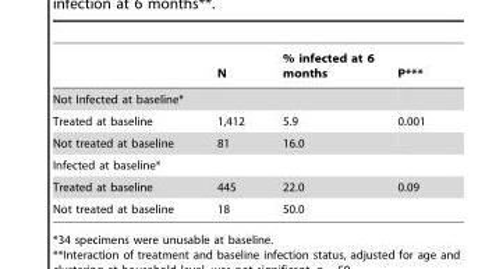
<table><thead><tr><td></td><td>N</td><td>% infected at 6 months</td><td>P***</td></tr></thead><tbody><tr><td colspan="4">Not Infected at baseline*</td></tr><tr><td>Treated at baseline</td><td>1,412</td><td>5.9</td><td>0.001</td></tr><tr><td>Not treated at baseline</td><td>81</td><td>16.0</td><td></td></tr><tr><td colspan="4">Infected at baseline*</td></tr><tr><td>Treated at baseline</td><td>445</td><td>22.0</td><td>0.09</td></tr><tr><td>Not treated at baseline</td><td>18</td><td>50.0</td><td></td></tr></tbody></table>